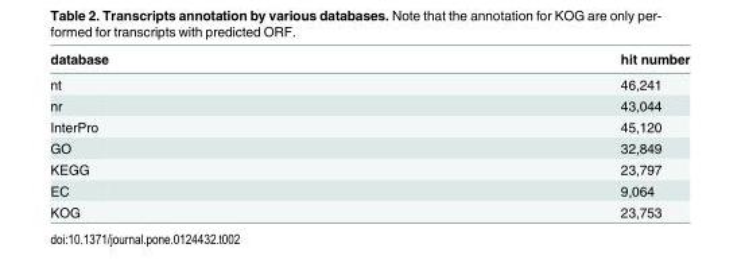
<table><thead><tr><td>database</td><td>hit number</td></tr></thead><tbody><tr><td>nt</td><td>46,241</td></tr><tr><td>nr</td><td>43,044</td></tr><tr><td>InterPro</td><td>45,120</td></tr><tr><td>GO</td><td>32,849</td></tr><tr><td>KEGG</td><td>23,797</td></tr><tr><td>EC</td><td>9,064</td></tr><tr><td>KOG</td><td>23,753</td></tr></tbody></table>